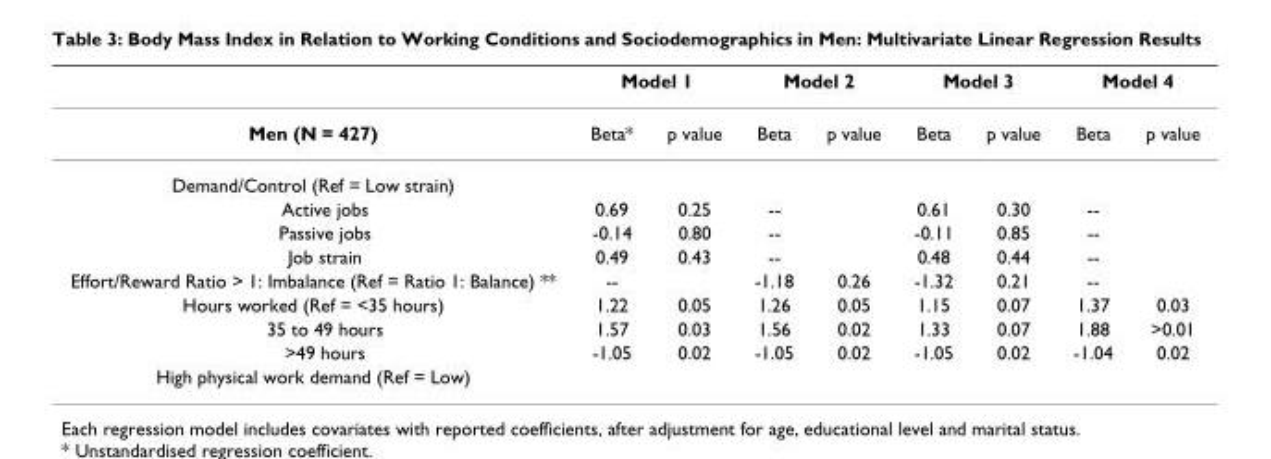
<table><thead><tr><td rowspan="2">Men (N = 427)</td><td colspan="2">Model 1</td><td colspan="2">Model 2</td><td colspan="2">Model 3</td><td colspan="2">Model 4</td></tr><tr><td>Beta*</td><td>p value</td><td>Beta</td><td>p value</td><td>Beta</td><td>p value</td><td>Beta</td><td>p value</td></tr></thead><tbody><tr><td colspan="9">Demand/Control (Ref = Low strain)</td></tr><tr><td>Active jobs</td><td>0.69</td><td>0.25</td><td>--</td><td></td><td>0.61</td><td>0.30</td><td>--</td><td></td></tr><tr><td>Passive jobs</td><td>-0.14</td><td>0.80</td><td>--</td><td></td><td>-0.11</td><td>0.85</td><td>--</td><td></td></tr><tr><td>Job strain</td><td>0.49</td><td>0.43</td><td>--</td><td></td><td>0.48</td><td>0.44</td><td>--</td><td></td></tr><tr><td>Effort/Reward Ratio &gt; 1: Imbalance (Ref = Ratio 1: Balance) **</td><td>--</td><td></td><td>-1.18</td><td>0.26</td><td>-1.32</td><td>0.21</td><td>--</td><td></td></tr><tr><td>Hours worked (Ref = &lt;35 hours)</td><td>1.22</td><td>0.05</td><td>1.26</td><td>0.05</td><td>1.15</td><td>0.07</td><td>1.37</td><td>0.03</td></tr><tr><td>35 to 49 hours</td><td>1.57</td><td>0.03</td><td>1.56</td><td>0.02</td><td>1.33</td><td>0.07</td><td>1.88</td><td>&gt;0.01</td></tr><tr><td>&gt;49 hours</td><td>-1.05</td><td>0.02</td><td>-1.05</td><td>0.02</td><td>-1.05</td><td>0.02</td><td>-1.04</td><td>0.02</td></tr><tr><td>High physical work demand (Ref = Low)</td><td></td><td></td><td></td><td></td><td></td><td></td><td></td><td></td></tr></tbody></table>